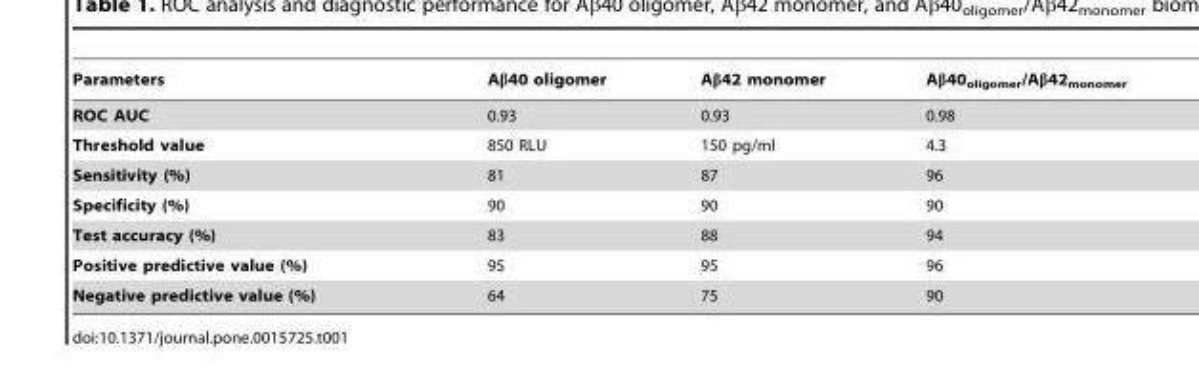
<table><thead><tr><td>Parameters</td><td>Aβ40 oligomer</td><td>Aβ42 monomer</td><td>Aβ40<sub>oligomer</sub>/Aβ42<sub>monomer</sub></td></tr></thead><tbody><tr><td>ROC AUC</td><td>0.93</td><td>0.93</td><td>0.98</td></tr><tr><td>Threshold value</td><td>850 RLU</td><td>150 pg/ml</td><td>4.3</td></tr><tr><td>Sensitivity (%)</td><td>81</td><td>87</td><td>96</td></tr><tr><td>Specificity (%)</td><td>90</td><td>90</td><td>90</td></tr><tr><td>Test accuracy (%)</td><td>83</td><td>88</td><td>94</td></tr><tr><td>Positive predictive value (%)</td><td>95</td><td>95</td><td>96</td></tr><tr><td>Negative predictive value (%)</td><td>64</td><td>75</td><td>90</td></tr></tbody></table>